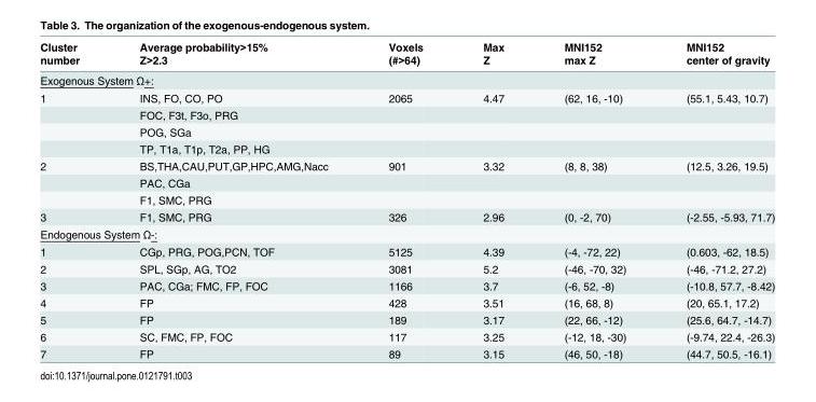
<table><thead><tr><td rowspan="2">Cluster number</td><td rowspan="2">Average probability&gt;15% Z&gt;2.3</td><td rowspan="2">Voxels (#&gt;64)</td><td rowspan="2">Max Z</td><td rowspan="2">MNI152 max Z</td><td rowspan="2">MNI152 center of gravity</td></tr><tr></tr></thead><tbody><tr><td colspan="6">Exogenous System Ω+:</td></tr><tr><td rowspan="4">1</td><td>INS, FO, CO, PO</td><td>2065</td><td>4.47</td><td>(62, 16, -10)</td><td>(55.1, 5.43, 10.7)</td></tr><tr><td>FOC, F3t, F3o, PRG</td><td></td><td></td><td></td><td></td></tr><tr><td>POG, SGa</td><td></td><td></td><td></td><td></td></tr><tr><td>TP, T1a, T1p, T2a, PP, HG</td><td></td><td></td><td></td><td></td></tr><tr><td rowspan="3">2</td><td>BS,THA,CAU,PUT,GP,HPC,AMG,Nacc</td><td>901</td><td>3.32</td><td>(8, 8, 38)</td><td>(12.5, 3.26, 19.5)</td></tr><tr><td>PAC, CGa</td><td></td><td></td><td></td><td></td></tr><tr><td>F1, SMC, PRG</td><td></td><td></td><td></td><td></td></tr><tr><td>3</td><td>F1, SMC, PRG</td><td>326</td><td>2.96</td><td>(0, -2, 70)</td><td>(-2.55, -5.93, 71.7)</td></tr><tr><td colspan="6">Endogenous System Ω-:</td></tr><tr><td>1</td><td>CGp, PRG, POG,PCN, TOF</td><td>5125</td><td>4.39</td><td>(-4, -72, 22)</td><td>(0.603, -62, 18.5)</td></tr><tr><td>2</td><td>SPL, SGp, AG, TO2</td><td>3081</td><td>5.2</td><td>(-46, -70, 32)</td><td>(-46, -71.2, 27.2)</td></tr><tr><td>3</td><td>PAC, CGa; FMC, FP, FOC</td><td>1166</td><td>3.7</td><td>(-6, 52, -8)</td><td>(-10.8, 57.7, -8.42)</td></tr><tr><td>4</td><td>FP</td><td>428</td><td>3.51</td><td>(16, 68, 8)</td><td>(20, 65.1, 17.2)</td></tr><tr><td>5</td><td>FP</td><td>189</td><td>3.17</td><td>(22, 66, -12)</td><td>(25.6, 64.7, -14.7)</td></tr><tr><td>6</td><td>SC, FMC, FP, FOC</td><td>117</td><td>3.25</td><td>(-12, 18, -30)</td><td>(-9.74, 22.4, -26.3)</td></tr><tr><td>7</td><td>FP</td><td>89</td><td>3.15</td><td>(46, 50, -18)</td><td>(44.7, 50.5, -16.1)</td></tr></tbody></table>